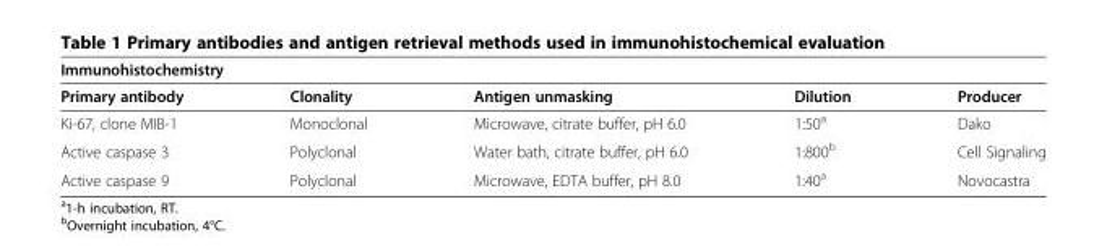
<table><thead><tr><td colspan="5">Immunohistochemistry</td></tr><tr><td>Primary antibody</td><td>Clonality</td><td>Antigen unmasking</td><td>Dilution</td><td>Producer</td></tr></thead><tbody><tr><td>Ki-67, clone MIB-1</td><td>Monoclonal</td><td>Microwave, citrate buffer, pH 6.0</td><td>1:50<sup>a</sup></td><td>Dako</td></tr><tr><td>Active caspase 3</td><td>Polyclonal</td><td>Water bath, citrate buffer, pH 6.0</td><td>1:800<sup>b</sup></td><td>Cell Signaling</td></tr><tr><td>Active caspase 9</td><td>Polyclonal</td><td>Microwave, EDTA buffer, pH 8.0</td><td>1:40<sup>a</sup></td><td>Novocastra</td></tr></tbody></table>